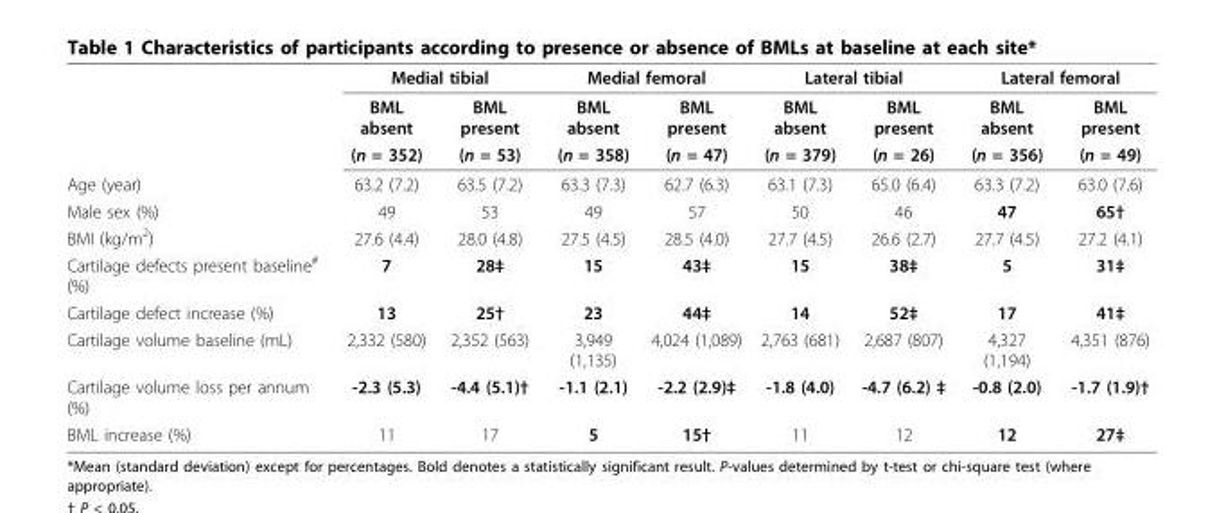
<table><thead><tr><td rowspan="2"></td><td colspan="2">Medial tibial</td><td colspan="2">Medial femoral</td><td colspan="2">Lateral tibial</td><td colspan="2">Lateral femoral</td></tr><tr><td>BML absent</td><td>BML present</td><td>BML absent</td><td>BML present</td><td>BML absent</td><td>BML present</td><td>BML absent</td><td>BML present</td></tr></thead><tbody><tr><td></td><td>(n = 352)</td><td>(n = 53)</td><td>(n = 358)</td><td>(n = 47)</td><td>(n = 379)</td><td>(n = 26)</td><td>(n = 356)</td><td>(n = 49)</td></tr><tr><td>Age (year)</td><td>63.2 (7.2)</td><td>63.5 (7.2)</td><td>63.3 (7.3)</td><td>62.7 (6.3)</td><td>63.1 (7.3)</td><td>65.0 (6.4)</td><td>63.3 (7.2)</td><td>63.0 (7.6)</td></tr><tr><td>Male sex (%)</td><td>49</td><td>53</td><td>49</td><td>57</td><td>50</td><td>46</td><td>47</td><td>65†</td></tr><tr><td>BMI (kg/m<sup>2</sup>)</td><td>27.6 (4.4)</td><td>28.0 (4.8)</td><td>27.5 (4.5)</td><td>28.5 (4.0)</td><td>27.7 (4.5)</td><td>26.6 (2.7)</td><td>27.7 (4.5)</td><td>27.2 (4.1)</td></tr><tr><td>Cartilage defects present baseline<sup>#</sup> (%)</td><td>7</td><td>28‡</td><td>15</td><td>43‡</td><td>15</td><td>38‡</td><td>5</td><td>31‡</td></tr><tr><td>Cartilage defect increase (%)</td><td>13</td><td>25†</td><td>23</td><td>44‡</td><td>14</td><td>52‡</td><td>17</td><td>41‡</td></tr><tr><td>Cartilage volume baseline (mL)</td><td>2,332 (580)</td><td>2,352 (563)</td><td>3,949 (1,135)</td><td>4,024 (1,089)</td><td>2,763 (681)</td><td>2,687 (807)</td><td>4,327 (1,194)</td><td>4,351 (876)</td></tr><tr><td>Cartilage volume loss per annum (%)</td><td>-2.3 (5.3)</td><td>-4.4 (5.1)†</td><td>-1.1 (2.1)</td><td>-2.2 (2.9)‡</td><td>-1.8 (4.0)</td><td>-4.7 (6.2) ‡</td><td>-0.8 (2.0)</td><td>-1.7 (1.9)†</td></tr><tr><td>BML increase (%)</td><td>11</td><td>17</td><td>5</td><td>15†</td><td>11</td><td>12</td><td>12</td><td>27‡</td></tr></tbody></table>